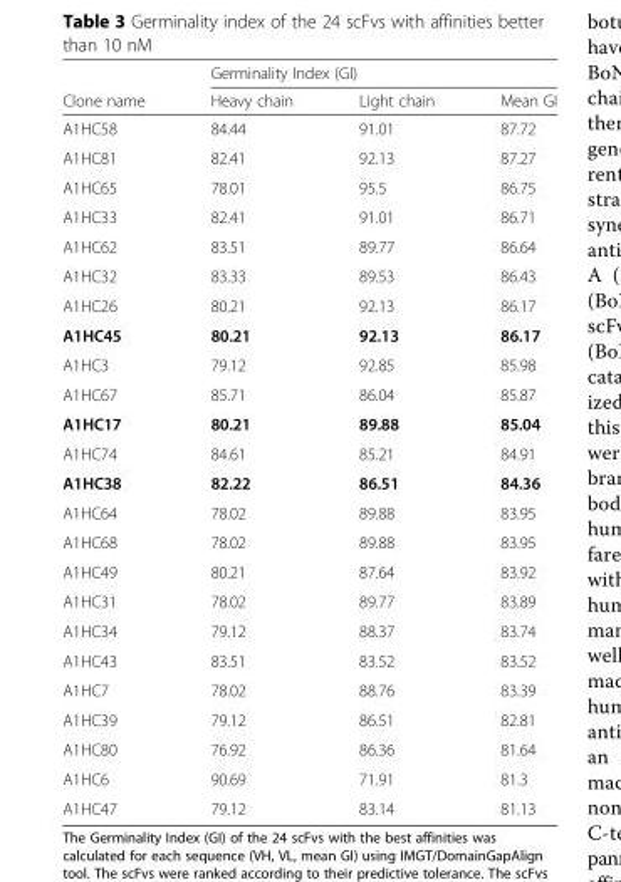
<table><thead><tr><td rowspan="2">Clone name</td><td colspan="3">Germinality Index (GI)</td></tr><tr><td>Heavy chain</td><td>Light chain</td><td>Mean GI</td></tr></thead><tbody><tr><td>A1HC58</td><td>84.44</td><td>91.01</td><td>87.72</td></tr><tr><td>A1HC81</td><td>82.41</td><td>92.13</td><td>87.27</td></tr><tr><td>A1HC65</td><td>78.01</td><td>95.5</td><td>86.75</td></tr><tr><td>A1HC33</td><td>82.41</td><td>91.01</td><td>86.71</td></tr><tr><td>A1HC62</td><td>83.51</td><td>89.77</td><td>86.64</td></tr><tr><td>A1HC32</td><td>83.33</td><td>89.53</td><td>86.43</td></tr><tr><td>A1HC26</td><td>80.21</td><td>92.13</td><td>86.17</td></tr><tr><td>A1HC45</td><td>80.21</td><td>92.13</td><td>86.17</td></tr><tr><td>A1HC3</td><td>79.12</td><td>92.85</td><td>85.98</td></tr><tr><td>A1HC67</td><td>85.71</td><td>86.04</td><td>85.87</td></tr><tr><td>A1HC17</td><td>80.21</td><td>89.88</td><td>85.04</td></tr><tr><td>A1HC74</td><td>84.61</td><td>85.21</td><td>84.91</td></tr><tr><td>A1HC38</td><td>82.22</td><td>86.51</td><td>84.36</td></tr><tr><td>A1HC64</td><td>78.02</td><td>89.88</td><td>83.95</td></tr><tr><td>A1HC68</td><td>78.02</td><td>89.88</td><td>83.95</td></tr><tr><td>A1HC49</td><td>80.21</td><td>87.64</td><td>83.92</td></tr><tr><td>A1HC31</td><td>78.02</td><td>89.77</td><td>83.89</td></tr><tr><td>A1HC34</td><td>79.12</td><td>88.37</td><td>83.74</td></tr><tr><td>A1HC43</td><td>83.51</td><td>83.52</td><td>83.52</td></tr><tr><td>A1HC7</td><td>78.02</td><td>88.76</td><td>83.39</td></tr><tr><td>A1HC39</td><td>79.12</td><td>86.51</td><td>82.81</td></tr><tr><td>A1HC80</td><td>76.92</td><td>86.36</td><td>81.64</td></tr><tr><td>A1HC6</td><td>90.69</td><td>71.91</td><td>81.3</td></tr><tr><td>A1HC47</td><td>79.12</td><td>83.14</td><td>81.13</td></tr></tbody></table>